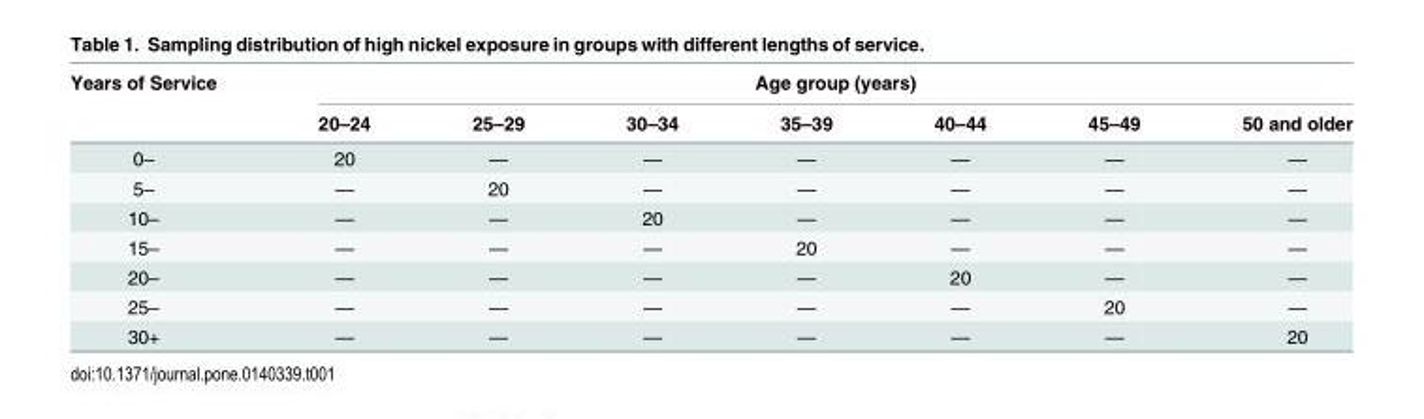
<table><thead><tr><td rowspan="2">Years of Service</td><td colspan="7">Age group (years)</td></tr><tr><td>20–24</td><td>25–29</td><td>30–34</td><td>35–39</td><td>40–44</td><td>45–49</td><td>50 and older</td></tr></thead><tbody><tr><td>0–</td><td>20</td><td>—</td><td>—</td><td>—</td><td>—</td><td>—</td><td>—</td></tr><tr><td>5–</td><td>—</td><td>20</td><td>—</td><td>—</td><td>—</td><td>—</td><td>—</td></tr><tr><td>10–</td><td>—</td><td>—</td><td>20</td><td>—</td><td>—</td><td>—</td><td>—</td></tr><tr><td>15–</td><td>—</td><td>—</td><td>—</td><td>20</td><td>—</td><td>—</td><td>—</td></tr><tr><td>20–</td><td>—</td><td>—</td><td>—</td><td>—</td><td>20</td><td>—</td><td>—</td></tr><tr><td>25–</td><td>—</td><td>—</td><td>—</td><td>—</td><td>—</td><td>20</td><td>—</td></tr><tr><td>30+</td><td>—</td><td>—</td><td>—</td><td>—</td><td>—</td><td>—</td><td>20</td></tr></tbody></table>